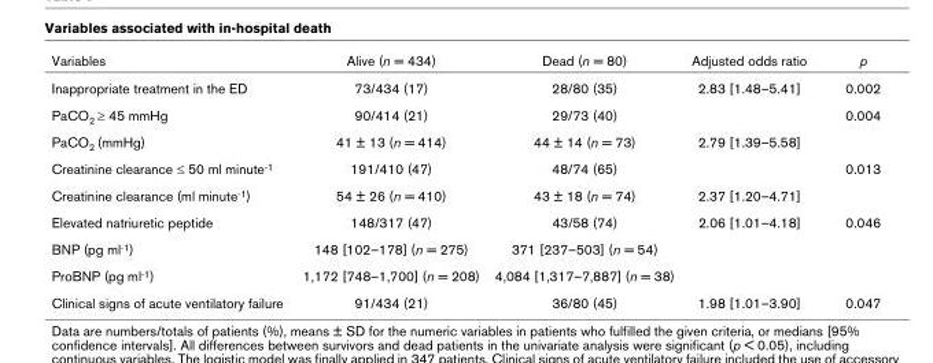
<table><thead><tr><td>Variables</td><td>Alive (n = 434)</td><td>Dead (n = 80)</td><td>Adjusted odds ratio</td><td>p</td></tr></thead><tbody><tr><td>Inappropriate treatment in the ED</td><td>73/434 (17)</td><td>28/80 (35)</td><td>2.83 [1.48–5.41]</td><td>0.002</td></tr><tr><td>PaCO2 ≥ 45 mmHg</td><td>90/414 (21)</td><td>29/73 (40)</td><td></td><td>0.004</td></tr><tr><td>PaCO2 (mmHg)</td><td>41 ± 13 (n = 414)</td><td>44 ± 14 (n = 73)</td><td>2.79 [1.39–5.58]</td><td></td></tr><tr><td>Creatinine clearance ≤ 50 ml minute-1</td><td>191/410 (47)</td><td>48/74 (65)</td><td></td><td>0.013</td></tr><tr><td>Creatinine clearance (ml minute-1)</td><td>54 ± 26 (n = 410)</td><td>43 ± 18 (n = 74)</td><td>2.37 [1.20–4.71]</td><td></td></tr><tr><td>Elevated natriuretic peptide</td><td>148/317 (47)</td><td>43/58 (74)</td><td>2.06 [1.01–4.18]</td><td>0.046</td></tr><tr><td>BNP (pg ml-1)</td><td>148 [102–178] (n = 275)</td><td>371 [237–503] (n = 54)</td><td></td><td></td></tr><tr><td>ProBNP (pg ml-1)</td><td>1,172 [748–1,700] (n = 208)</td><td>4,084 [1,317–7,887] (n = 38)</td><td></td><td></td></tr><tr><td>Clinical signs of acute ventilatory failure</td><td>91/434 (21)</td><td>36/80 (45)</td><td>1.98 [1.01–3.90]</td><td>0.047</td></tr></tbody></table>